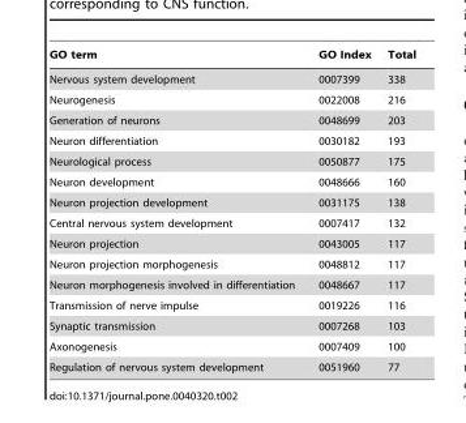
<table><thead><tr><td>GO term</td><td>GO Index</td><td>Total</td></tr></thead><tbody><tr><td>Nervous system development</td><td>0007399</td><td>338</td></tr><tr><td>Neurogenesis</td><td>0022008</td><td>216</td></tr><tr><td>Generation of neurons</td><td>0048699</td><td>203</td></tr><tr><td>Neuron differentiation</td><td>0030182</td><td>193</td></tr><tr><td>Neurological process</td><td>0050877</td><td>175</td></tr><tr><td>Neuron development</td><td>0048666</td><td>160</td></tr><tr><td>Neuron projection development</td><td>0031175</td><td>138</td></tr><tr><td>Central nervous system development</td><td>0007417</td><td>132</td></tr><tr><td>Neuron projection</td><td>0043005</td><td>117</td></tr><tr><td>Neuron projection morphogenesis</td><td>0048812</td><td>117</td></tr><tr><td>Neuron morphogenesis involved in differentiation</td><td>0048667</td><td>117</td></tr><tr><td>Transmission of nerve impulse</td><td>0019226</td><td>116</td></tr><tr><td>Synaptic transmission</td><td>0007268</td><td>103</td></tr><tr><td>Axonogenesis</td><td>0007409</td><td>100</td></tr><tr><td>Regulation of nervous system development</td><td>0051960</td><td>77</td></tr></tbody></table>